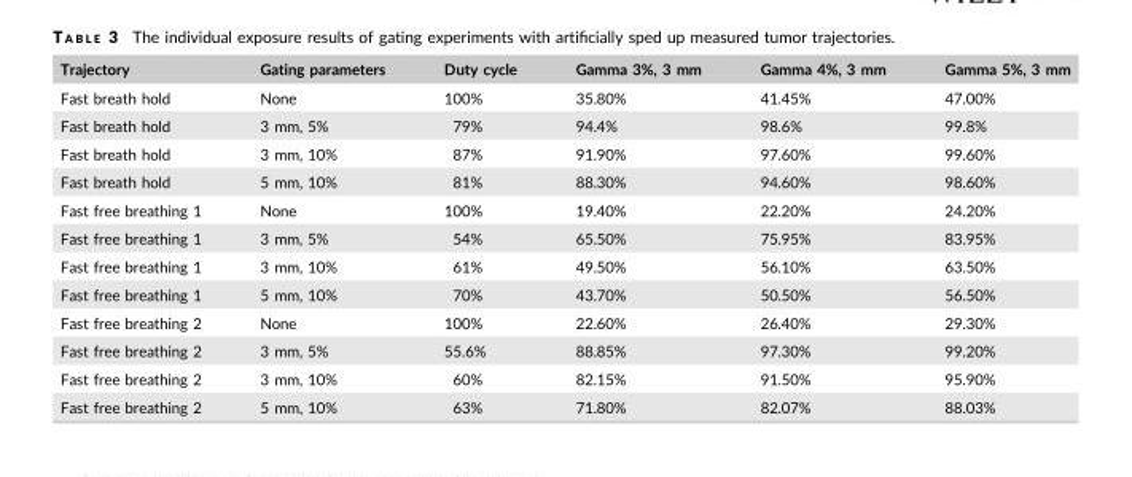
<table><thead><tr><td>Trajectory</td><td>Gating parameters</td><td>Duty cycle</td><td>Gamma 3%, 3 mm</td><td>Gamma 4%, 3 mm</td><td>Gamma 5%, 3 mm</td></tr></thead><tbody><tr><td>Fast breath hold</td><td>None</td><td>100%</td><td>35.80%</td><td>41.45%</td><td>47.00%</td></tr><tr><td>Fast breath hold</td><td>3 mm, 5%</td><td>79%</td><td>94.4%</td><td>98.6%</td><td>99.8%</td></tr><tr><td>Fast breath hold</td><td>3 mm, 10%</td><td>87%</td><td>91.90%</td><td>97.60%</td><td>99.60%</td></tr><tr><td>Fast breath hold</td><td>5 mm, 10%</td><td>81%</td><td>88.30%</td><td>94.60%</td><td>98.60%</td></tr><tr><td>Fast free breathing 1</td><td>None</td><td>100%</td><td>19.40%</td><td>22.20%</td><td>24.20%</td></tr><tr><td>Fast free breathing 1</td><td>3 mm, 5%</td><td>54%</td><td>65.50%</td><td>75.95%</td><td>83.95%</td></tr><tr><td>Fast free breathing 1</td><td>3 mm, 10%</td><td>61%</td><td>49.50%</td><td>56.10%</td><td>63.50%</td></tr><tr><td>Fast free breathing 1</td><td>5 mm, 10%</td><td>70%</td><td>43.70%</td><td>50.50%</td><td>56.50%</td></tr><tr><td>Fast free breathing 2</td><td>None</td><td>100%</td><td>22.60%</td><td>26.40%</td><td>29.30%</td></tr><tr><td>Fast free breathing 2</td><td>3 mm, 5%</td><td>55.6%</td><td>88.85%</td><td>97.30%</td><td>99.20%</td></tr><tr><td>Fast free breathing 2</td><td>3 mm, 10%</td><td>60%</td><td>82.15%</td><td>91.50%</td><td>95.90%</td></tr><tr><td>Fast free breathing 2</td><td>5 mm, 10%</td><td>63%</td><td>71.80%</td><td>82.07%</td><td>88.03%</td></tr></tbody></table>